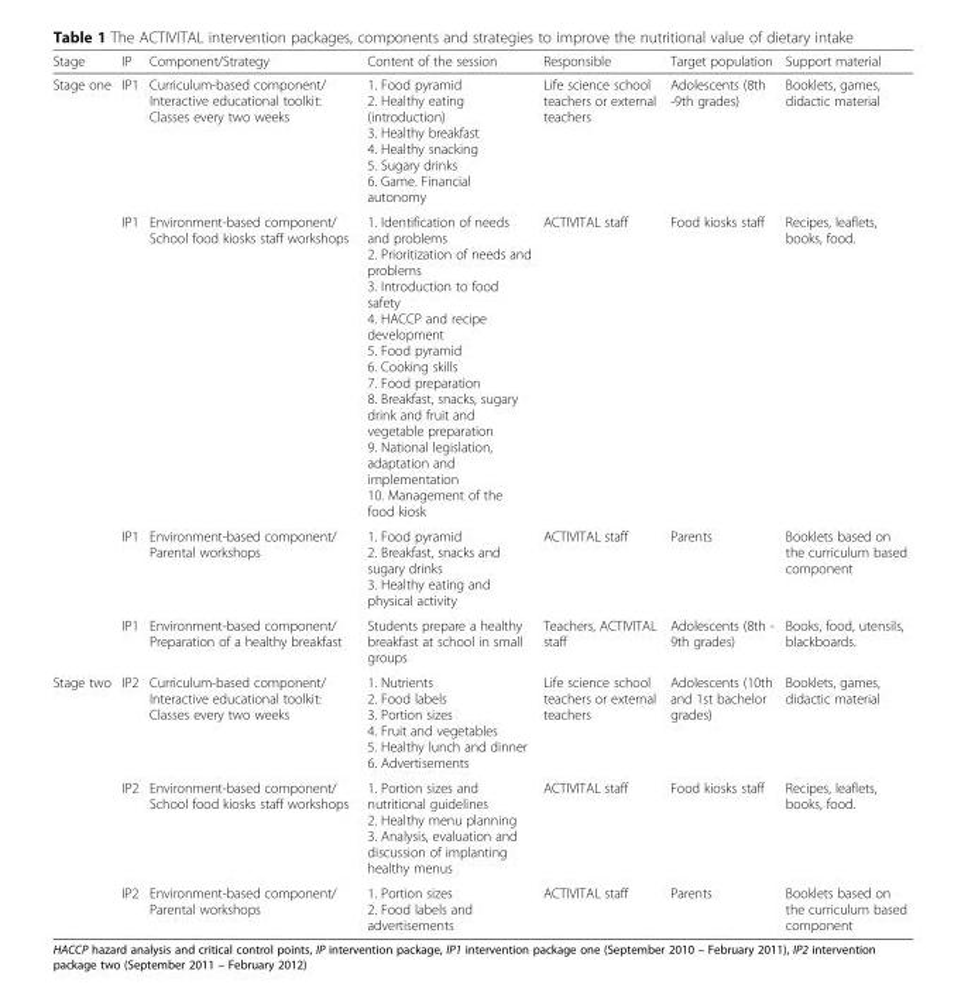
<table><thead><tr><td>Stage</td><td>IP</td><td>Component/Strategy</td><td>Content of the session</td><td>Responsible</td><td>Target population</td><td>Support material</td></tr></thead><tbody><tr><td rowspan="4">Stage one</td><td>IP1</td><td>Curriculum-based component/ Interactive educational toolkit: Classes every two weeks</td><td>1. Food pyramid 2. Healthy eating (introduction) 3. Healthy breakfast 4. Healthy snacking 5. Sugary drinks 6. Game. Financial autonomy</td><td>Life science school teachers or external teachers</td><td>Adolescents (8th -9th grades)</td><td>Booklets, games, didactic material</td></tr><tr><td>IP1</td><td>Environment-based component/ School food kiosks staff workshops</td><td>1. Identification of needs and problems 2. Prioritization of needs and problems 3. Introduction to food safety 4. HACCP and recipe development 5. Food pyramid 6. Cooking skills 7. Food preparation 8. Breakfast, snacks, sugary drink and fruit and vegetable preparation 9. National legislation, adaptation and implementation 10. Management of the food kiosk</td><td>ACTIVITAL staff</td><td>Food kiosks staff</td><td>Recipes, leaflets, books, food.</td></tr><tr><td>IP1</td><td>Environment-based component/ Parental workshops</td><td>1. Food pyramid 2. Breakfast, snacks and sugary drinks 3. Healthy eating and physical activity</td><td>ACTIVITAL staff</td><td>Parents</td><td>Booklets based on the curriculum based component</td></tr><tr><td>IP1</td><td>Environment-based component/ Preparation of a healthy breakfast</td><td>Students prepare a healthy breakfast at school in small groups</td><td>Teachers, ACTIVITAL staff</td><td>Adolescents (8th - 9th grades)</td><td>Books, food, utensils, blackboards.</td></tr><tr><td rowspan="3">Stage two</td><td>IP2</td><td>Curriculum-based component/ Interactive educational toolkit: Classes every two weeks</td><td>1. Nutrients 2. Food labels 3. Portion sizes 4. Fruit and vegetables 5. Healthy lunch and dinner 6. Advertisements</td><td>Life science school teachers or external teachers</td><td>Adolescents (10th and 1st bachelor grades)</td><td>Booklets, games, didactic material</td></tr><tr><td>IP2</td><td>Environment-based component/ School food kiosks staff workshops</td><td>1. Portion sizes and nutritional guidelines 2. Healthy menu planning 3. Analysis, evaluation and discussion of implanting healthy menus</td><td>ACTIVITAL staff</td><td>Food kiosks staff</td><td>Recipes, leaflets, books, food.</td></tr><tr><td>IP2</td><td>Environment-based component/ Parental workshops</td><td>1. Portion sizes 2. Food labels and advertisements</td><td>ACTIVITAL staff</td><td>Parents</td><td>Booklets based on the curriculum based component</td></tr></tbody></table>